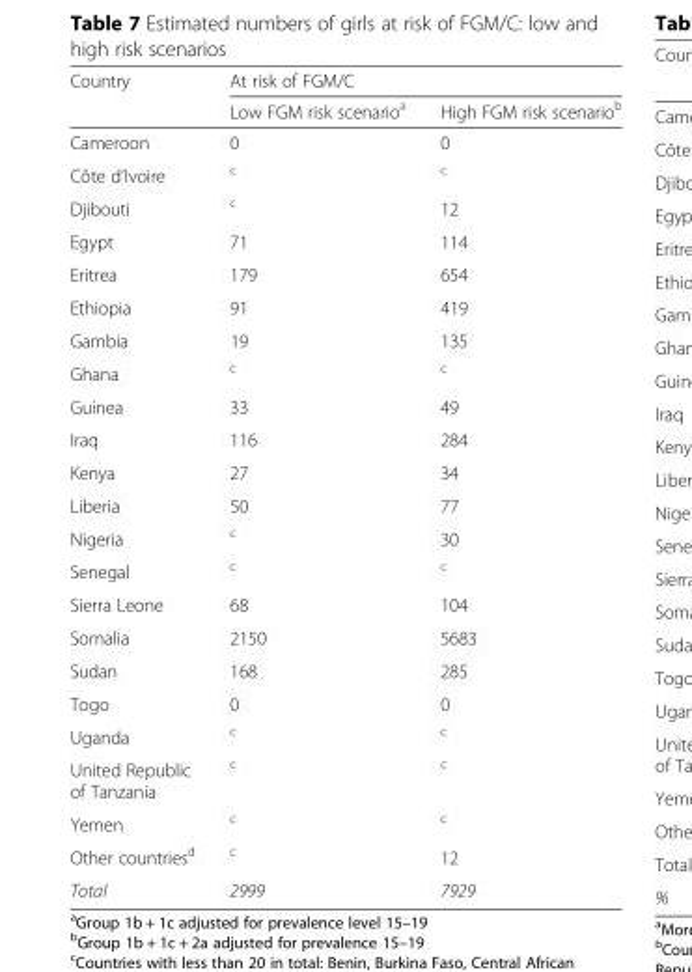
<table><thead><tr><td rowspan="2">Country</td><td colspan="2">At risk of FGM/C</td></tr><tr><td>Low FGM risk scenario<sup>a</sup></td><td>High FGM risk scenario<sup>b</sup></td></tr></thead><tbody><tr><td>Cameroon</td><td>0</td><td>0</td></tr><tr><td>Côte d’Ivoire</td><td><sup>c</sup></td><td><sup>c</sup></td></tr><tr><td>Djibouti</td><td><sup>c</sup></td><td>12</td></tr><tr><td>Egypt</td><td>71</td><td>114</td></tr><tr><td>Eritrea</td><td>179</td><td>654</td></tr><tr><td>Ethiopia</td><td>91</td><td>419</td></tr><tr><td>Gambia</td><td>19</td><td>135</td></tr><tr><td>Ghana</td><td><sup>c</sup></td><td><sup>c</sup></td></tr><tr><td>Guinea</td><td>33</td><td>49</td></tr><tr><td>Iraq</td><td>116</td><td>284</td></tr><tr><td>Kenya</td><td>27</td><td>34</td></tr><tr><td>Liberia</td><td>50</td><td>77</td></tr><tr><td>Nigeria</td><td><sup>c</sup></td><td>30</td></tr><tr><td>Senegal</td><td><sup>c</sup></td><td><sup>c</sup></td></tr><tr><td>Sierra Leone</td><td>68</td><td>104</td></tr><tr><td>Somalia</td><td>2150</td><td>5683</td></tr><tr><td>Sudan</td><td>168</td><td>285</td></tr><tr><td>Togo</td><td>0</td><td>0</td></tr><tr><td>Uganda</td><td><sup>c</sup></td><td><sup>c</sup></td></tr><tr><td>United Republic of Tanzania</td><td><sup>c</sup></td><td><sup>c</sup></td></tr><tr><td>Yemen</td><td><sup>c</sup></td><td><sup>c</sup></td></tr><tr><td>Other countries<sup>d</sup></td><td><sup>c</sup></td><td>12</td></tr><tr><td>Total</td><td>2999</td><td>7929</td></tr></tbody></table>